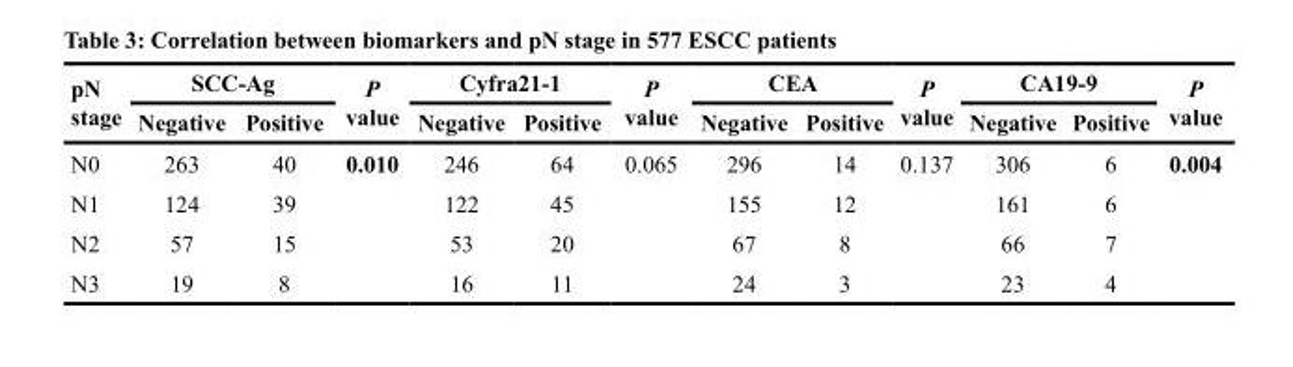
<table><thead><tr><td rowspan="2">pN stage</td><td colspan="2">SCC-Ag</td><td rowspan="2">P value</td><td colspan="2">Cyfra21-1</td><td rowspan="2">P value</td><td colspan="2">CEA</td><td rowspan="2">P value</td><td colspan="2">CA19-9</td><td rowspan="2">P value</td></tr><tr><td>Negative</td><td>Positive</td><td>Negative</td><td>Positive</td><td>Negative</td><td>Positive</td><td>Negative</td><td>Positive</td></tr></thead><tbody><tr><td>N0</td><td>263</td><td>40</td><td>0.010</td><td>246</td><td>64</td><td>0.065</td><td>296</td><td>14</td><td>0.137</td><td>306</td><td>6</td><td>0.004</td></tr><tr><td>N1</td><td>124</td><td>39</td><td></td><td>122</td><td>45</td><td></td><td>155</td><td>12</td><td></td><td>161</td><td>6</td><td></td></tr><tr><td>N2</td><td>57</td><td>15</td><td></td><td>53</td><td>20</td><td></td><td>67</td><td>8</td><td></td><td>66</td><td>7</td><td></td></tr><tr><td>N3</td><td>19</td><td>8</td><td></td><td>16</td><td>11</td><td></td><td>24</td><td>3</td><td></td><td>23</td><td>4</td><td></td></tr></tbody></table>